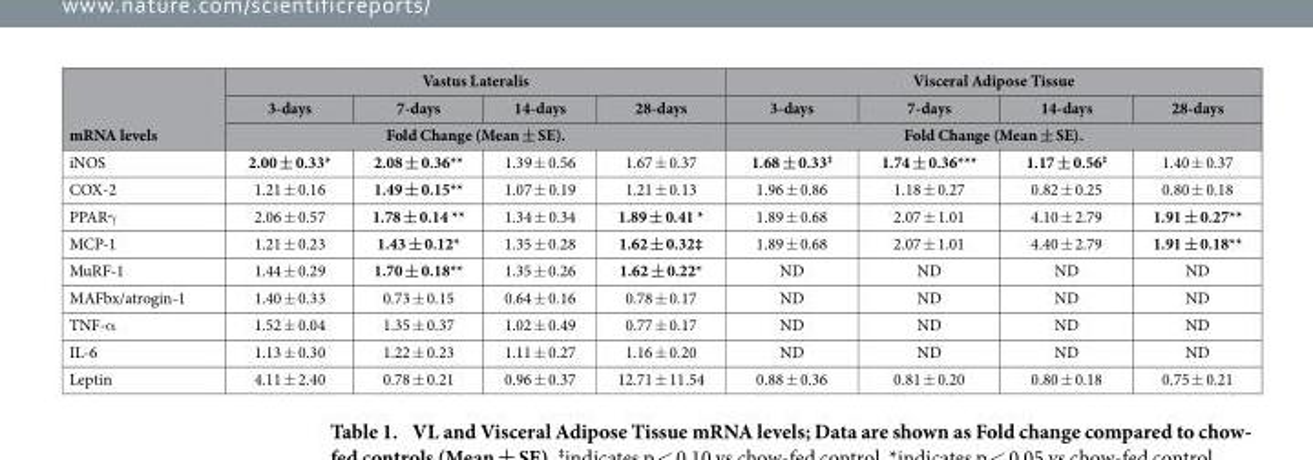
<table><thead><tr><td rowspan="3">mRNA levels</td><td colspan="4">Vastus Lateralis</td><td colspan="4">Visceral Adipose Tissue</td></tr><tr><td>3-days</td><td>7-days</td><td>14-days</td><td>28-days</td><td>3-days</td><td>7-days</td><td>14-days</td><td>28-days</td></tr><tr><td colspan="4">Fold Change (Mean ± SE).</td><td colspan="4">Fold Change (Mean ± SE).</td></tr></thead><tbody><tr><td>iNOS</td><td>2.00 ± 0.33*</td><td>2.08 ± 0.36**</td><td>1.39 ± 0.56</td><td>1.67 ± 0.37</td><td>1.68 ± 0.33<sup>‡</sup></td><td>1.74 ± 0.36***</td><td>1.17 ± 0.56<sup>‡</sup></td><td>1.40 ± 0.37</td></tr><tr><td>COX-2</td><td>1.21 ± 0.16</td><td>1.49 ± 0.15**</td><td>1.07 ± 0.19</td><td>1.21 ± 0.13</td><td>1.96 ± 0.86</td><td>1.18 ± 0.27</td><td>0.82 ± 0.25</td><td>0.80 ± 0.18</td></tr><tr><td>PPARγ</td><td>2.06 ± 0.57</td><td>1.78 ± 0.14 **</td><td>1.34 ± 0.34</td><td>1.89 ± 0.41 *</td><td>1.89 ± 0.68</td><td>2.07 ± 1.01</td><td>4.10 ± 2.79</td><td>1.91 ± 0.27**</td></tr><tr><td>MCP-1</td><td>1.21 ± 0.23</td><td>1.43 ± 0.12*</td><td>1.35 ± 0.28</td><td>1.62 ± 0.32‡</td><td>1.89 ± 0.68</td><td>2.07 ± 1.01</td><td>4.40 ± 2.79</td><td>1.91 ± 0.18**</td></tr><tr><td>MuRF-1</td><td>1.44 ± 0.29</td><td>1.70 ± 0.18**</td><td>1.35 ± 0.26</td><td>1.62 ± 0.22*</td><td>ND</td><td>ND</td><td>ND</td><td>ND</td></tr><tr><td>MAFbx/atrogin-1</td><td>1.40 ± 0.33</td><td>0.73 ± 0.15</td><td>0.64 ± 0.16</td><td>0.78 ± 0.17</td><td>ND</td><td>ND</td><td>ND</td><td>ND</td></tr><tr><td>TNF-α</td><td>1.52 ± 0.04</td><td>1.35 ± 0.37</td><td>1.02 ± 0.49</td><td>0.77 ± 0.17</td><td>ND</td><td>ND</td><td>ND</td><td>ND</td></tr><tr><td>IL-6</td><td>1.13 ± 0.30</td><td>1.22 ± 0.23</td><td>1.11 ± 0.27</td><td>1.16 ± 0.20</td><td>ND</td><td>ND</td><td>ND</td><td>ND</td></tr><tr><td>Leptin</td><td>4.11 ± 2.40</td><td>0.78 ± 0.21</td><td>0.96 ± 0.37</td><td>12.71 ± 11.54</td><td>0.88 ± 0.36</td><td>0.81 ± 0.20</td><td>0.80 ± 0.18</td><td>0.75 ± 0.21</td></tr></tbody></table>